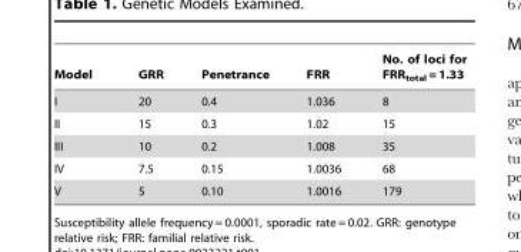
<table><thead><tr><td>Model</td><td>GRR</td><td>Penetrance</td><td>FRR</td><td>No. of loci for FRR<sub>total</sub> = 1.33</td></tr></thead><tbody><tr><td>I</td><td>20</td><td>0.4</td><td>1.036</td><td>8</td></tr><tr><td>II</td><td>15</td><td>0.3</td><td>1.02</td><td>15</td></tr><tr><td>III</td><td>10</td><td>0.2</td><td>1.008</td><td>35</td></tr><tr><td>IV</td><td>7.5</td><td>0.15</td><td>1.0036</td><td>68</td></tr><tr><td>V</td><td>5</td><td>0.10</td><td>1.0016</td><td>179</td></tr></tbody></table>